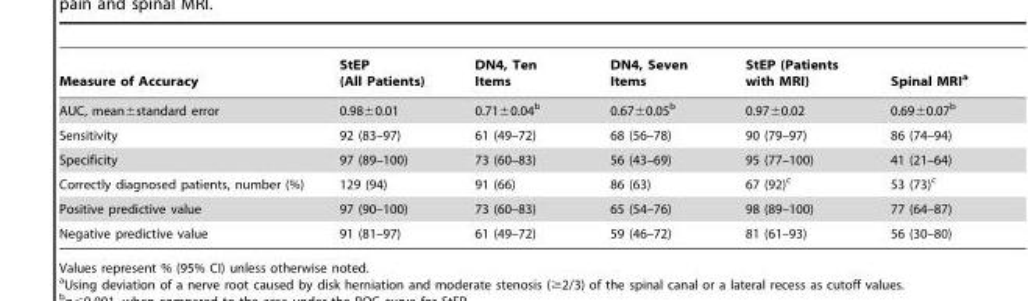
<table><thead><tr><td>Measure of Accuracy</td><td>StEP (All Patients)</td><td>DN4, Ten Items</td><td>DN4, Seven Items</td><td>StEP (Patients with MRI)</td><td>Spinal MRI<sup>a</sup></td></tr></thead><tbody><tr><td>AUC, mean±standard error</td><td>0.98±0.01</td><td>0.71±0.04<sup>b</sup></td><td>0.67±0.05<sup>b</sup></td><td>0.97±0.02</td><td>0.69±0.07<sup>b</sup></td></tr><tr><td>Sensitivity</td><td>92 (83–97)</td><td>61 (49–72)</td><td>68 (56–78)</td><td>90 (79–97)</td><td>86 (74–94)</td></tr><tr><td>Specificity</td><td>97 (89–100)</td><td>73 (60–83)</td><td>56 (43–69)</td><td>95 (77–100)</td><td>41 (21–64)</td></tr><tr><td>Correctly diagnosed patients, number (%)</td><td>129 (94)</td><td>91 (66)</td><td>86 (63)</td><td>67 (92)<sup>c</sup></td><td>53 (73)<sup>c</sup></td></tr><tr><td>Positive predictive value</td><td>97 (90–100)</td><td>73 (60–83)</td><td>65 (54–76)</td><td>98 (89–100)</td><td>77 (64–87)</td></tr><tr><td>Negative predictive value</td><td>91 (81–97)</td><td>61 (49–72)</td><td>59 (46–72)</td><td>81 (61–93)</td><td>56 (30–80)</td></tr></tbody></table>